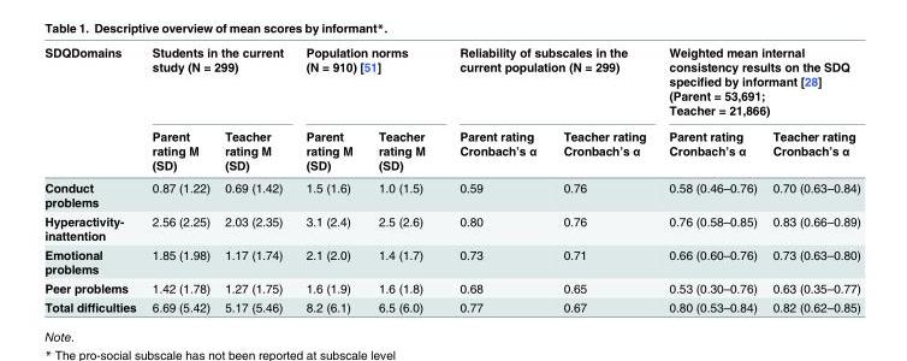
<table><thead><tr><td rowspan="2">SDQDomains</td><td colspan="2">Students in the current study (N = 299)</td><td colspan="2">Population norms (N = 910) [51]</td><td colspan="2">Reliability of subscales in the current population (N = 299)</td><td colspan="2">Weighted mean internal consistency results on the SDQ specified by informant [28] (Parent = 53,691; Teacher = 21,866)</td></tr><tr><td>Parent rating M (SD)</td><td>Teacher rating M (SD)</td><td>Parent rating M (SD)</td><td>Teacher rating M (SD)</td><td>Parent rating Cronbach’s α</td><td>Teacher rating Cronbach’s α</td><td>Parent rating Cronbach’s α</td><td>Teacher rating Cronbach’s α</td></tr></thead><tbody><tr><td>Conduct problems</td><td>0.87 (1.22)</td><td>0.69 (1.42)</td><td>1.5 (1.6)</td><td>1.0 (1.5)</td><td>0.59</td><td>0.76</td><td>0.58 (0.46–0.76)</td><td>0.70 (0.63–0.84)</td></tr><tr><td>Hyperactivity- inattention</td><td>2.56 (2.25)</td><td>2.03 (2.35)</td><td>3.1 (2.4)</td><td>2.5 (2.6)</td><td>0.80</td><td>0.76</td><td>0.76 (0.58–0.85)</td><td>0.83 (0.66–0.89)</td></tr><tr><td>Emotional problems</td><td>1.85 (1.98)</td><td>1.17 (1.74)</td><td>2.1 (2.0)</td><td>1.4 (1.7)</td><td>0.73</td><td>0.71</td><td>0.66 (0.60–0.76)</td><td>0.73 (0.63–0.80)</td></tr><tr><td>Peer problems</td><td>1.42 (1.78)</td><td>1.27 (1.75)</td><td>1.6 (1.9)</td><td>1.6 (1.8)</td><td>0.68</td><td>0.65</td><td>0.53 (0.30–0.76)</td><td>0.63 (0.35–0.77)</td></tr><tr><td>Total difficulties</td><td>6.69 (5.42)</td><td>5.17 (5.46)</td><td>8.2 (6.1)</td><td>6.5 (6.0)</td><td>0.77</td><td>0.67</td><td>0.80 (0.53–0.84)</td><td>0.82 (0.62–0.85)</td></tr></tbody></table>